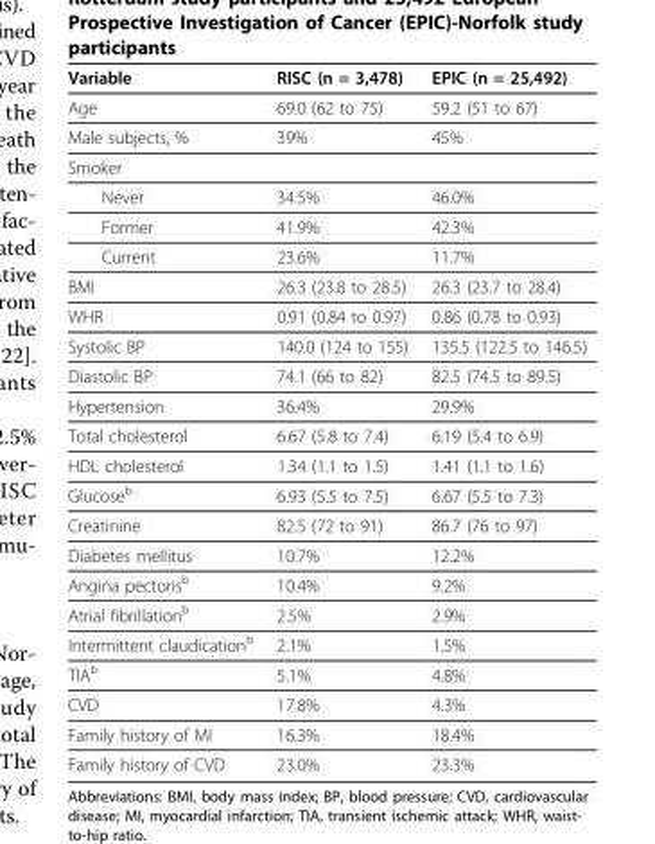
<table><thead><tr><td>Variable</td><td>RISC (n = 3,478)</td><td>EPIC (n = 25,492)</td></tr></thead><tbody><tr><td>Age</td><td>69.0 (62 to 75)</td><td>59.2 (51 to 67)</td></tr><tr><td>Male subjects, %</td><td>39%</td><td>45%</td></tr><tr><td colspan="3">Smoker</td></tr><tr><td>Never</td><td>34.5%</td><td>46.0%</td></tr><tr><td>Former</td><td>41.9%</td><td>42.3%</td></tr><tr><td>Current</td><td>23.6%</td><td>11.7%</td></tr><tr><td>BMI</td><td>26.3 (23.8 to 28.5)</td><td>26.3 (23.7 to 28.4)</td></tr><tr><td>WHR</td><td>0.91 (0.84 to 0.97)</td><td>0.86 (0.78 to 0.93)</td></tr><tr><td>Systolic BP</td><td>140.0 (124 to 155)</td><td>135.5 (122.5 to 146.5)</td></tr><tr><td>Diastolic BP</td><td>74.1 (66 to 82)</td><td>82.5 (74.5 to 89.5)</td></tr><tr><td>Hypertension</td><td>36.4%</td><td>29.9%</td></tr><tr><td>Total cholesterol</td><td>6.67 (5.8 to 7.4)</td><td>6.19 (5.4 to 6.9)</td></tr><tr><td>HDL cholesterol</td><td>1.34 (1.1 to 1.5)</td><td>1.41 (1.1 to 1.6)</td></tr><tr><td>Glucose<sup>b</sup></td><td>6.93 (5.5 to 7.5)</td><td>6.67 (5.5 to 7.3)</td></tr><tr><td>Creatinine</td><td>82.5 (72 to 91)</td><td>86.7 (76 to 97)</td></tr><tr><td>Diabetes mellitus</td><td>10.7%</td><td>12.2%</td></tr><tr><td>Angina pectoris<sup>b</sup></td><td>10.4%</td><td>9.2%</td></tr><tr><td>Atrial fibrillation<sup>b</sup></td><td>2.5%</td><td>2.9%</td></tr><tr><td>Intermittent claudication<sup>b</sup></td><td>2.1%</td><td>1.5%</td></tr><tr><td>TIA<sup>b</sup></td><td>5.1%</td><td>4.8%</td></tr><tr><td>CVD</td><td>17.8%</td><td>4.3%</td></tr><tr><td>Family history of MI</td><td>16.3%</td><td>18.4%</td></tr><tr><td>Family history of CVD</td><td>23.0%</td><td>23.3%</td></tr></tbody></table>